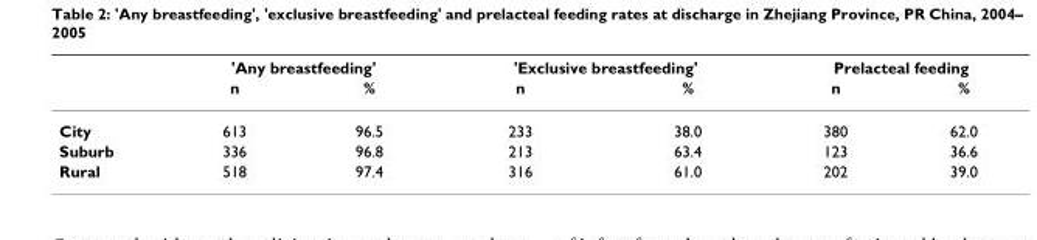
<table><thead><tr><td rowspan="2"></td><td colspan="2">&#x27;Any breastfeeding&#x27;</td><td colspan="2">&#x27;Exclusive breastfeeding&#x27;</td><td colspan="2">Prelacteal feeding</td></tr><tr><td>n</td><td>%</td><td>n</td><td>%</td><td>n</td><td>%</td></tr></thead><tbody><tr><td>City</td><td>613</td><td>96.5</td><td>233</td><td>38.0</td><td>380</td><td>62.0</td></tr><tr><td>Suburb</td><td>336</td><td>96.8</td><td>213</td><td>63.4</td><td>123</td><td>36.6</td></tr><tr><td>Rural</td><td>518</td><td>97.4</td><td>316</td><td>61.0</td><td>202</td><td>39.0</td></tr></tbody></table>